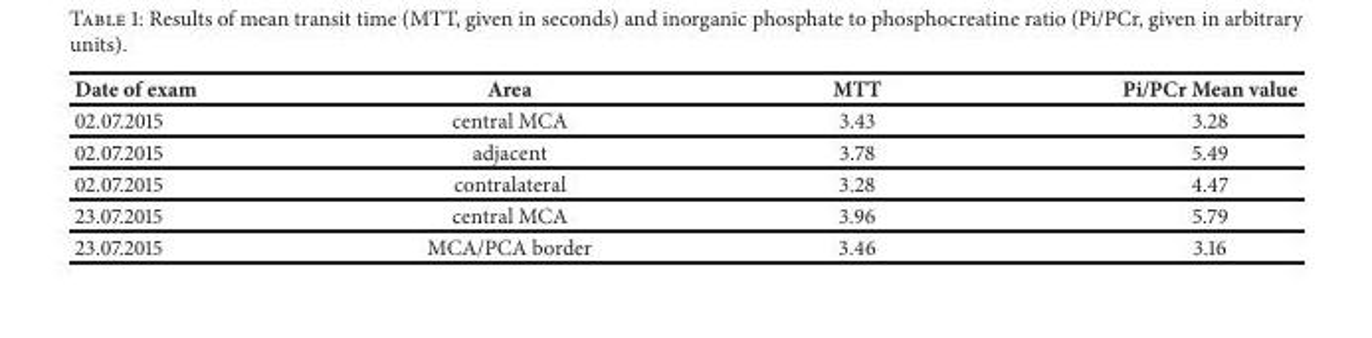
<table><thead><tr><td>Date of exam</td><td>Area</td><td>MTT</td><td>Pi/PCr Mean value</td></tr></thead><tbody><tr><td>02.07.2015</td><td>central MCA</td><td>3.43</td><td>3.28</td></tr><tr><td>02.07.2015</td><td>adjacent</td><td>3.78</td><td>5.49</td></tr><tr><td>02.07.2015</td><td>contralateral</td><td>3.28</td><td>4.47</td></tr><tr><td>23.07.2015</td><td>central MCA</td><td>3.96</td><td>5.79</td></tr><tr><td>23.07.2015</td><td>MCA/PCA border</td><td>3.46</td><td>3.16</td></tr></tbody></table>